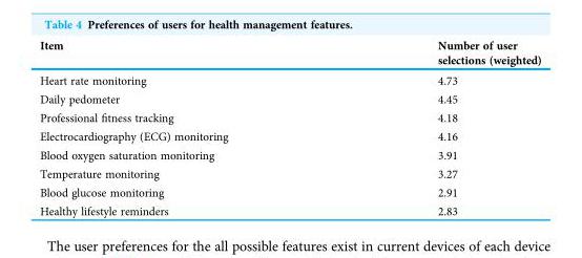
<table><thead><tr><td>Item</td><td>Number of user selections (weighted)</td></tr></thead><tbody><tr><td>Heart rate monitoring</td><td>4.73</td></tr><tr><td>Daily pedometer</td><td>4.45</td></tr><tr><td>Professional fitness tracking</td><td>4.18</td></tr><tr><td>Electrocardiography (ECG) monitoring</td><td>4.16</td></tr><tr><td>Blood oxygen saturation monitoring</td><td>3.91</td></tr><tr><td>Temperature monitoring</td><td>3.27</td></tr><tr><td>Blood glucose monitoring</td><td>2.91</td></tr><tr><td>Healthy lifestyle reminders</td><td>2.83</td></tr></tbody></table>